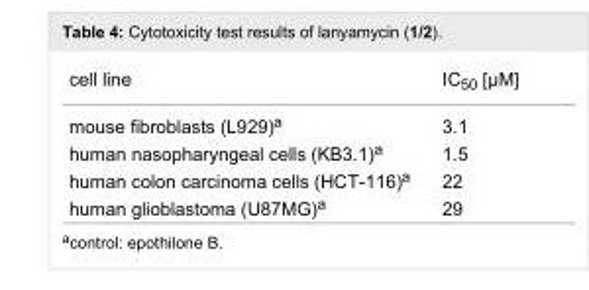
<table><tbody><tr><td>cell line</td><td>IC<sub>50</sub> [µM]</td></tr><tr><td>mouse fibroblasts (L929)<sup>a</sup></td><td>3.1</td></tr><tr><td>human nasopharyngeal cells (KB3.1)<sup>a</sup></td><td>1.5</td></tr><tr><td>human colon carcinoma cells (HCT-116)<sup>a</sup></td><td>22</td></tr><tr><td>human glioblastoma (U87MG)<sup>a</sup></td><td>29</td></tr></tbody></table>